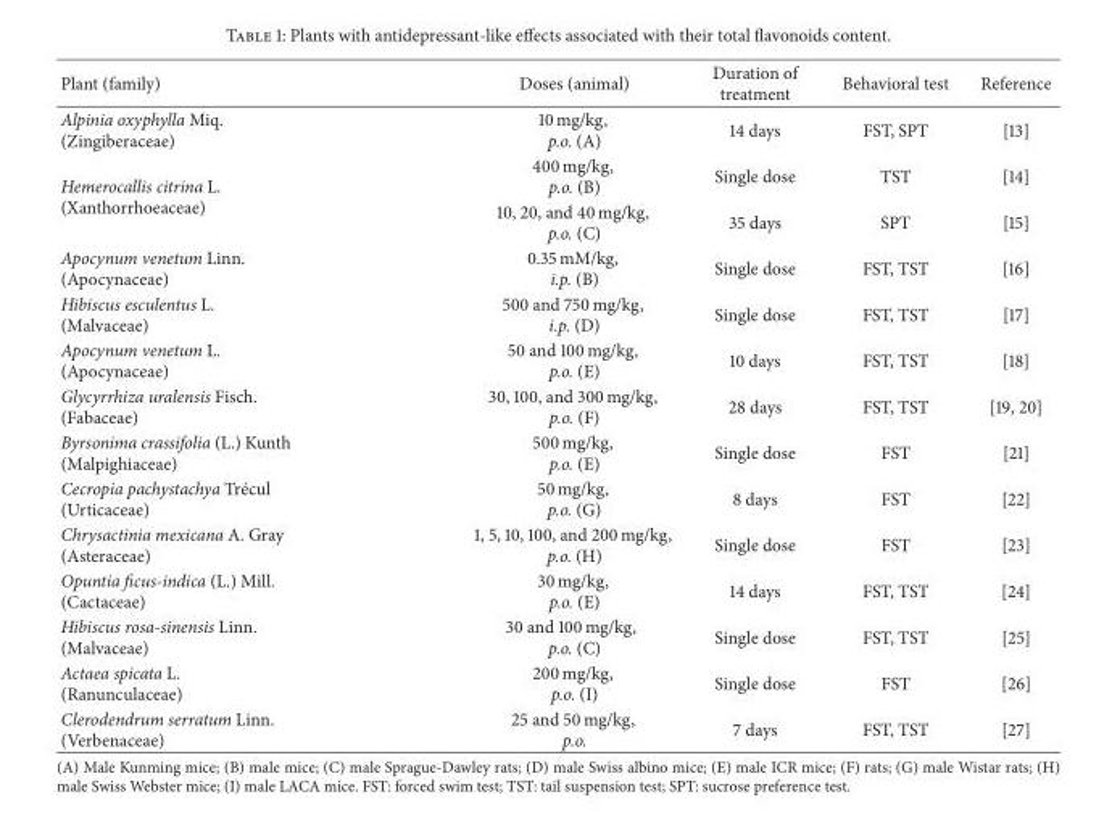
<table><thead><tr><td>Plant (family)</td><td>Doses (animal)</td><td>Duration of treatment</td><td>Behavioral test</td><td>Reference</td></tr></thead><tbody><tr><td>Alpinia oxyphylla Miq. (Zingiberaceae)</td><td>10 mg/kg, p.o. (A)</td><td>14 days</td><td>FST, SPT</td><td>[13]</td></tr><tr><td rowspan="2">Hemerocallis citrina L. (Xanthorrhoeaceae)</td><td>400 mg/kg, p.o. (B)</td><td>Single dose</td><td>TST</td><td>[14]</td></tr><tr><td>10, 20, and 40 mg/kg, p.o. (C)</td><td>35 days</td><td>SPT</td><td>[15]</td></tr><tr><td>Apocynum venetum Linn. (Apocynaceae)</td><td>0.35 mM/kg, i.p. (B)</td><td>Single dose</td><td>FST, TST</td><td>[16]</td></tr><tr><td>Hibiscus esculentus L. (Malvaceae)</td><td>500 and 750 mg/kg, i.p. (D)</td><td>Single dose</td><td>FST, TST</td><td>[17]</td></tr><tr><td>Apocynum venetum L. (Apocynaceae)</td><td>50 and 100 mg/kg, p.o. (E)</td><td>10 days</td><td>FST, TST</td><td>[18]</td></tr><tr><td>Glycyrrhiza uralensis Fisch. (Fabaceae)</td><td>30, 100, and 300 mg/kg, p.o. (F)</td><td>28 days</td><td>FST, TST</td><td>[19, 20]</td></tr><tr><td>Byrsonima crassifolia (L.) Kunth (Malpighiaceae)</td><td>500 mg/kg, p.o. (E)</td><td>Single dose</td><td>FST</td><td>[21]</td></tr><tr><td>Cecropia pachystachya Tr´ecul (Urticaceae)</td><td>50 mg/kg, p.o. (G)</td><td>8 days</td><td>FST</td><td>[22]</td></tr><tr><td>Chrysactinia mexicana A. Gray (Asteraceae)</td><td>1, 5, 10, 100, and 200 mg/kg, p.o. (H)</td><td>Single dose</td><td>FST</td><td>[23]</td></tr><tr><td>Opuntia ficus-indica (L.) Mill. (Cactaceae)</td><td>30 mg/kg, p.o. (E)</td><td>14 days</td><td>FST, TST</td><td>[24]</td></tr><tr><td>Hibiscus rosa-sinensis Linn. (Malvaceae)</td><td>30 and 100 mg/kg, p.o. (C)</td><td>Single dose</td><td>FST, TST</td><td>[25]</td></tr><tr><td>Actaea spicata L. (Ranunculaceae)</td><td>200 mg/kg, p.o. (I)</td><td>Single dose</td><td>FST</td><td>[26]</td></tr><tr><td>Clerodendrum serratum Linn. (Verbenaceae)</td><td>25 and 50 mg/kg, p.o.</td><td>7 days</td><td>FST, TST</td><td>[27]</td></tr></tbody></table>